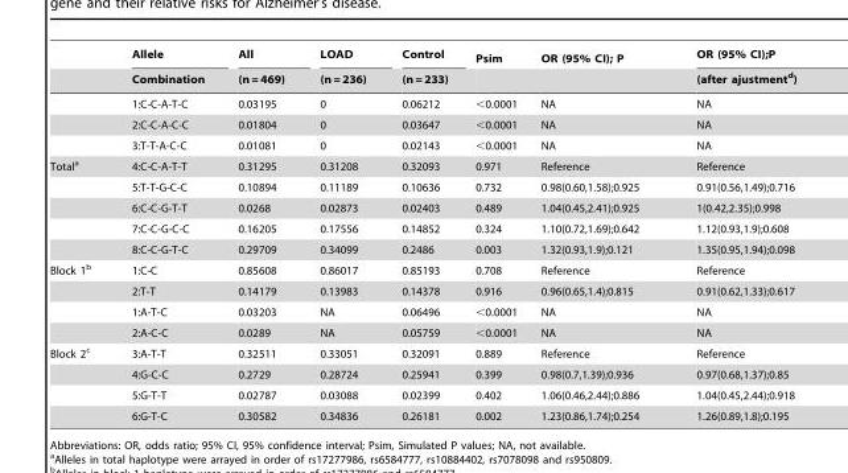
<table><thead><tr><td rowspan="2"></td><td rowspan="2">Allele Combination</td><td rowspan="2">All (n = 469)</td><td rowspan="2">LOAD (n = 236)</td><td rowspan="2">Control (n = 233)</td><td rowspan="2">Psim</td><td rowspan="2">OR (95% CI); P</td><td rowspan="2">OR (95% CI);P (after ajustment<sup>d</sup>)</td></tr><tr></tr></thead><tbody><tr><td></td><td>1:C-C-A-T-C</td><td>0.03195</td><td>0</td><td>0.06212</td><td>&lt;0.0001</td><td>NA</td><td>NA</td></tr><tr><td></td><td>2:C-C-A-C-C</td><td>0.01804</td><td>0</td><td>0.03647</td><td>&lt;0.0001</td><td>NA</td><td>NA</td></tr><tr><td></td><td>3:T-T-A-C-C</td><td>0.01081</td><td>0</td><td>0.02143</td><td>&lt;0.0001</td><td>NA</td><td>NA</td></tr><tr><td rowspan="5">Total<sup>a</sup></td><td>4:C-C-A-T-T</td><td>0.31295</td><td>0.31208</td><td>0.32093</td><td>0.971</td><td>Reference</td><td>Reference</td></tr><tr><td>5:T-T-G-C-C</td><td>0.10894</td><td>0.11189</td><td>0.10636</td><td>0.732</td><td>0.98(0.60,1.58);0.925</td><td>0.91(0.56,1.49);0.716</td></tr><tr><td>6:C-C-G-T-T</td><td>0.0268</td><td>0.02873</td><td>0.02403</td><td>0.489</td><td>1.04(0.45,2.41);0.925</td><td>1(0.42,2.35);0.998</td></tr><tr><td>7:C-C-G-C-C</td><td>0.16205</td><td>0.17556</td><td>0.14852</td><td>0.324</td><td>1.10(0.72,1.69);0.642</td><td>1.12(0.93,1.9);0.608</td></tr><tr><td>8:C-C-G-T-C</td><td>0.29709</td><td>0.34099</td><td>0.2486</td><td>0.003</td><td>1.32(0.93,1.9);0.121</td><td>1.35(0.95,1.94);0.098</td></tr><tr><td rowspan="4">Block 1<sup>b</sup></td><td>1:C-C</td><td>0.85608</td><td>0.86017</td><td>0.85193</td><td>0.708</td><td>Reference</td><td>Reference</td></tr><tr><td>2:T-T</td><td>0.14179</td><td>0.13983</td><td>0.14378</td><td>0.916</td><td>0.96(0.65,1.4);0.815</td><td>0.91(0.62,1.33);0.617</td></tr><tr><td>1:A-T-C</td><td>0.03203</td><td>NA</td><td>0.06496</td><td>&lt;0.0001</td><td>NA</td><td>NA</td></tr><tr><td>2:A-C-C</td><td>0.0289</td><td>NA</td><td>0.05759</td><td>&lt;0.0001</td><td>NA</td><td>NA</td></tr><tr><td rowspan="4">Block 2<sup>c</sup></td><td>3:A-T-T</td><td>0.32511</td><td>0.33051</td><td>0.32091</td><td>0.889</td><td>Reference</td><td>Reference</td></tr><tr><td>4:G-C-C</td><td>0.2729</td><td>0.28724</td><td>0.25941</td><td>0.399</td><td>0.98(0.7,1.39);0.936</td><td>0.97(0.68,1.37);0.85</td></tr><tr><td>5:G-T-T</td><td>0.02787</td><td>0.03088</td><td>0.02399</td><td>0.402</td><td>1.06(0.46,2.44);0.886</td><td>1.04(0.45,2.44);0.918</td></tr><tr><td>6:G-T-C</td><td>0.30582</td><td>0.34836</td><td>0.26181</td><td>0.002</td><td>1.23(0.86,1.74);0.254</td><td>1.26(0.89,1.8);0.195</td></tr></tbody></table>